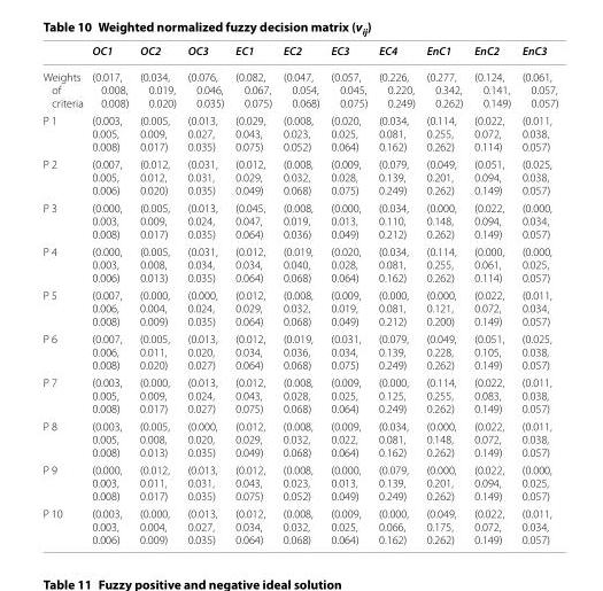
<table><thead><tr><td></td><td>OC1</td><td>OC2</td><td>OC3</td><td>EC1</td><td>EC2</td><td>EC3</td><td>EC4</td><td>EnC1</td><td>EnC2</td><td>EnC3</td></tr></thead><tbody><tr><td>Weights of criteria</td><td>(0.017, 0.008, 0.008)</td><td>(0.034, 0.019, 0.020)</td><td>(0.076, 0.046, 0.035)</td><td>(0.082, 0.067, 0.075)</td><td>(0.047, 0.054, 0.068)</td><td>(0.057, 0.045, 0.075)</td><td>(0.226, 0.220, 0.249)</td><td>(0.277, 0.342, 0.262)</td><td>(0.124, 0.141, 0.149)</td><td>(0.061, 0.057, 0.057)</td></tr><tr><td>P 1</td><td>(0.003, 0.005, 0.008)</td><td>(0.005, 0.009, 0.017)</td><td>(0.013, 0.027, 0.035)</td><td>(0.029, 0.043, 0.075)</td><td>(0.008, 0.023, 0.052)</td><td>(0.020, 0.025, 0.064)</td><td>(0.034, 0.081, 0.162)</td><td>(0.114, 0.255, 0.262)</td><td>(0.022, 0.072, 0.114)</td><td>(0.011, 0.038, 0.057)</td></tr><tr><td>P 2</td><td>(0.007, 0.005, 0.006)</td><td>(0.012, 0.012, 0.020)</td><td>(0.031, 0.031, 0.035)</td><td>(0.012, 0.029, 0.049)</td><td>(0.008, 0.032, 0.068)</td><td>(0.009, 0.028, 0.075)</td><td>(0.079, 0.139, 0.249)</td><td>(0.049, 0.201, 0.262)</td><td>(0.051, 0.094, 0.149)</td><td>(0.025, 0.038, 0.057)</td></tr><tr><td>P 3</td><td>(0.000, 0.003, 0.008)</td><td>(0.005, 0.009, 0.017)</td><td>(0.013, 0.024, 0.035)</td><td>(0.045, 0.047, 0.064)</td><td>(0.008, 0.019, 0.036)</td><td>(0.000, 0.013, 0.049)</td><td>(0.034, 0.110, 0.212)</td><td>(0.000, 0.148, 0.262)</td><td>(0.022, 0.094, 0.149)</td><td>(0.000, 0.034, 0.057)</td></tr><tr><td>P 4</td><td>(0.000, 0.003, 0.006)</td><td>(0.005, 0.008, 0.013)</td><td>(0.031, 0.034, 0.035)</td><td>(0.012, 0.034, 0.064)</td><td>(0.019, 0.040, 0.068)</td><td>(0.020, 0.028, 0.064)</td><td>(0.034, 0.081, 0.162)</td><td>(0.114, 0.255, 0.262)</td><td>(0.000, 0.061, 0.114)</td><td>(0.000, 0.025, 0.057)</td></tr><tr><td>P 5</td><td>(0.007, 0.006, 0.008)</td><td>(0.000, 0.004, 0.009)</td><td>(0.000, 0.024, 0.035)</td><td>(0.012, 0.029, 0.064)</td><td>(0.008, 0.032, 0.068)</td><td>(0.009, 0.019, 0.049)</td><td>(0.000, 0.081, 0.212)</td><td>(0.000, 0.121, 0.200)</td><td>(0.022, 0.072, 0.149)</td><td>(0.011, 0.034, 0.057)</td></tr><tr><td>P 6</td><td>(0.007, 0.006, 0.008)</td><td>(0.005, 0.011, 0.020)</td><td>(0.013, 0.020, 0.027)</td><td>(0.012, 0.034, 0.064)</td><td>(0.019, 0.036, 0.068)</td><td>(0.031, 0.034, 0.075)</td><td>(0.079, 0.139, 0.249)</td><td>(0.049, 0.228, 0.262)</td><td>(0.051, 0.105, 0.149)</td><td>(0.025, 0.038, 0.057)</td></tr><tr><td>P 7</td><td>(0.003, 0.005, 0.008)</td><td>(0.000, 0.009, 0.017)</td><td>(0.013, 0.024, 0.027)</td><td>(0.012, 0.043, 0.075)</td><td>(0.008, 0.028, 0.068)</td><td>(0.009, 0.025, 0.064)</td><td>(0.000, 0.125, 0.249)</td><td>(0.114, 0.255, 0.262)</td><td>(0.022, 0.083, 0.149)</td><td>(0.011, 0.038, 0.057)</td></tr><tr><td>P 8</td><td>(0.003, 0.005, 0.008)</td><td>(0.005, 0.008, 0.013)</td><td>(0.000, 0.020, 0.035)</td><td>(0.012, 0.029, 0.049)</td><td>(0.008, 0.032, 0.068)</td><td>(0.009, 0.022, 0.064)</td><td>(0.034, 0.081, 0.162)</td><td>(0.000, 0.148, 0.262)</td><td>(0.022, 0.072, 0.149)</td><td>(0.011, 0.038, 0.057)</td></tr><tr><td>P 9</td><td>(0.000, 0.003, 0.008)</td><td>(0.012, 0.011, 0.017)</td><td>(0.013, 0.031, 0.035)</td><td>(0.012, 0.043, 0.075)</td><td>(0.008, 0.023, 0.052)</td><td>(0.000, 0.013, 0.049)</td><td>(0.079, 0.139, 0.249)</td><td>(0.000, 0.201, 0.262)</td><td>(0.022, 0.094, 0.149)</td><td>(0.000, 0.025, 0.057)</td></tr><tr><td>P 10</td><td>(0.003, 0.003, 0.006)</td><td>(0.000, 0.004, 0.009)</td><td>(0.013, 0.027, 0.035)</td><td>(0.012, 0.034, 0.064)</td><td>(0.008, 0.032, 0.068)</td><td>(0.009, 0.025, 0.064)</td><td>(0.000, 0.066, 0.162)</td><td>(0.049, 0.175, 0.262)</td><td>(0.022, 0.072, 0.149)</td><td>(0.011, 0.034, 0.057)</td></tr></tbody></table>